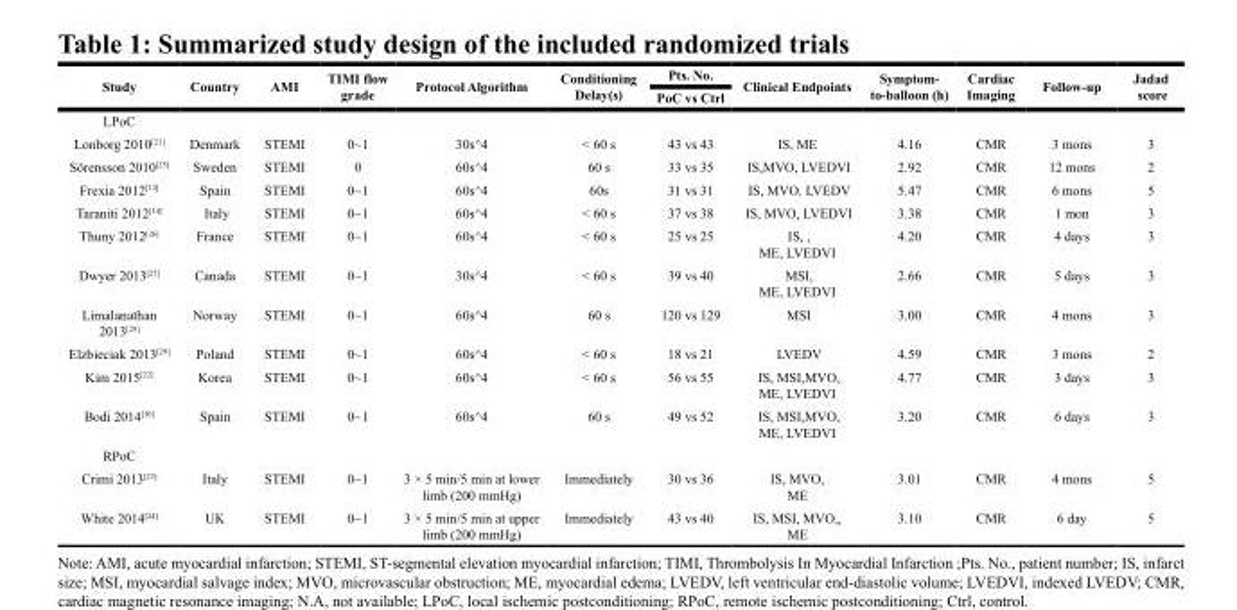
<table><thead><tr><td rowspan="2">Study</td><td rowspan="2">Country</td><td rowspan="2">AMI</td><td rowspan="2">TIMI flow grade</td><td rowspan="2">Protocol Algorithm</td><td rowspan="2">Conditioning Delay(s)</td><td rowspan="2">Pts. No. PoC vs Ctrl</td><td rowspan="2">Clinical Endpoints</td><td rowspan="2">Symptom- to-balloon (h)</td><td rowspan="2">Cardiac Imaging</td><td rowspan="2">Follow-up</td><td rowspan="2">Jadad score</td></tr><tr></tr></thead><tbody><tr><td colspan="12">LPoC</td></tr><tr><td>Lonborg 2010<sup>[21]</sup></td><td>Denmark</td><td>STEMI</td><td>0~1</td><td>30s^4</td><td>&lt; 60 s</td><td>43 vs 43</td><td>IS, ME</td><td>4.16</td><td>CMR</td><td>3 mons</td><td>3</td></tr><tr><td>Sörensson 2010<sup>[25]</sup></td><td>Sweden</td><td>STEMI</td><td>0</td><td>60s^4</td><td>60 s</td><td>33 vs 35</td><td>IS,MVO, LVEDVI</td><td>2.92</td><td>CMR</td><td>12 mons</td><td>2</td></tr><tr><td>Frexia 2012<sup>[13]</sup></td><td>Spain</td><td>STEMI</td><td>0~1</td><td>60s^4</td><td>60s</td><td>31 vs 31</td><td>IS, MVO. LVEDV</td><td>5.47</td><td>CMR</td><td>6 mons</td><td>5</td></tr><tr><td>Taraniti 2012<sup>[14]</sup></td><td>Italy</td><td>STEMI</td><td>0~1</td><td>60s^4</td><td>&lt; 60 s</td><td>37 vs 38</td><td>IS, MVO, LVEDVI</td><td>3.38</td><td>CMR</td><td>1 mon</td><td>3</td></tr><tr><td>Thuny 2012<sup>[26]</sup></td><td>France</td><td>STEMI</td><td>0~1</td><td>60s^4</td><td>&lt; 60 s</td><td>25 vs 25</td><td>IS, , ME, LVEDVI</td><td>4.20</td><td>CMR</td><td>4 days</td><td>3</td></tr><tr><td>Dwyer 2013<sup>[27]</sup></td><td>Canada</td><td>STEMI</td><td>0~1</td><td>30s^4</td><td>&lt; 60 s</td><td>39 vs 40</td><td>MSI, ME, LVEDVI</td><td>2.66</td><td>CMR</td><td>5 days</td><td>3</td></tr><tr><td>Limalanathan 2013<sup>[28]</sup></td><td>Norway</td><td>STEMI</td><td>0~1</td><td>60s^4</td><td>60 s</td><td>120 vs 129</td><td>MSI</td><td>3.00</td><td>CMR</td><td>4 mons</td><td>3</td></tr><tr><td>Elzbieciak 2013<sup>[29]</sup></td><td>Poland</td><td>STEMI</td><td>0~1</td><td>60s^4</td><td>&lt; 60 s</td><td>18 vs 21</td><td>LVEDV</td><td>4.59</td><td>CMR</td><td>3 mons</td><td>2</td></tr><tr><td>Kim 2015<sup>[22]</sup></td><td>Korea</td><td>STEMI</td><td>0~1</td><td>60s^4</td><td>&lt; 60 s</td><td>56 vs 55</td><td>IS, MSI,MVO, ME, LVEDVI</td><td>4.77</td><td>CMR</td><td>3 days</td><td>3</td></tr><tr><td>Bodi 2014<sup>[30]</sup></td><td>Spain</td><td>STEMI</td><td>0~1</td><td>60s^4</td><td>60 s</td><td>49 vs 52</td><td>IS, MSI,MVO, ME, LVEDVI</td><td>3.20</td><td>CMR</td><td>6 days</td><td>3</td></tr><tr><td colspan="12">RPoC</td></tr><tr><td>Crimi 2013<sup>[23]</sup></td><td>Italy</td><td>STEMI</td><td>0~1</td><td>3 × 5 min/5 min at lower limb (200 mmHg)</td><td>Immediately</td><td>30 vs 36</td><td>IS, MVO, ME</td><td>3.01</td><td>CMR</td><td>4 mons</td><td>5</td></tr><tr><td>White 2014<sup>[24]</sup></td><td>UK</td><td>STEMI</td><td>0~1</td><td>3 × 5 min/5 min at upper limb (200 mmHg)</td><td>Immediately</td><td>43 vs 40</td><td>IS, MSI, MVO,, ME</td><td>3.10</td><td>CMR</td><td>6 day</td><td>5</td></tr></tbody></table>